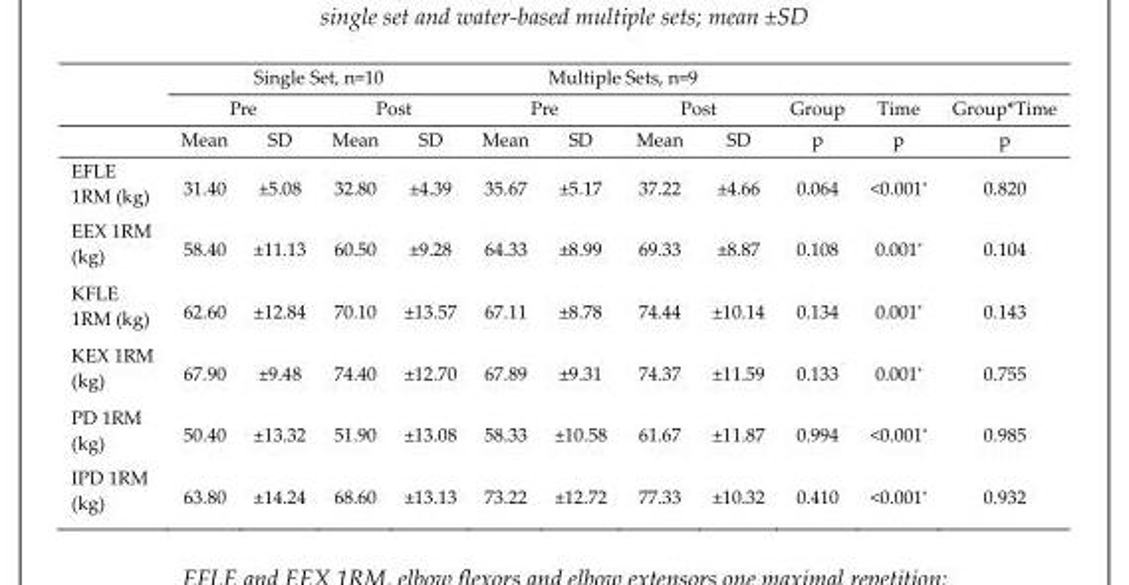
<table><thead><tr><td rowspan="3"></td><td colspan="4">Single Set, n=10</td><td colspan="4">Multiple Sets, n=9</td><td rowspan="3">Group p</td><td rowspan="3">Time p</td><td rowspan="3">Group*Time p</td></tr><tr><td colspan="2">Pre</td><td colspan="2">Post</td><td colspan="2">Pre</td><td colspan="2">Post</td></tr><tr><td>Mean</td><td>SD</td><td>Mean</td><td>SD</td><td>Mean</td><td>SD</td><td>Mean</td><td>SD</td></tr></thead><tbody><tr><td>EFLE 1RM (kg)</td><td>31.40</td><td>±5.08</td><td>32.80</td><td>±4.39</td><td>35.67</td><td>±5.17</td><td>37.22</td><td>±4.66</td><td>0.064</td><td>&lt;0.001*</td><td>0.820</td></tr><tr><td>EEX 1RM (kg)</td><td>58.40</td><td>±11.13</td><td>60.50</td><td>±9.28</td><td>64.33</td><td>±8.99</td><td>69.33</td><td>±8.87</td><td>0.108</td><td>0.001*</td><td>0.104</td></tr><tr><td>KFLE 1RM (kg)</td><td>62.60</td><td>±12.84</td><td>70.10</td><td>±13.57</td><td>67.11</td><td>±8.78</td><td>74.44</td><td>±10.14</td><td>0.134</td><td>0.001*</td><td>0.143</td></tr><tr><td>KEX 1RM (kg)</td><td>67.90</td><td>±9.48</td><td>74.40</td><td>±12.70</td><td>67.89</td><td>±9.31</td><td>74.37</td><td>±11.59</td><td>0.133</td><td>0.001*</td><td>0.755</td></tr><tr><td>PD 1RM (kg)</td><td>50.40</td><td>±13.32</td><td>51.90</td><td>±13.08</td><td>58.33</td><td>±10.58</td><td>61.67</td><td>±11.87</td><td>0.994</td><td>&lt;0.001*</td><td>0.985</td></tr><tr><td>IPD 1RM (kg)</td><td>63.80</td><td>±14.24</td><td>68.60</td><td>±13.13</td><td>73.22</td><td>±12.72</td><td>77.33</td><td>±10.32</td><td>0.410</td><td>&lt;0.001*</td><td>0.932</td></tr></tbody></table>